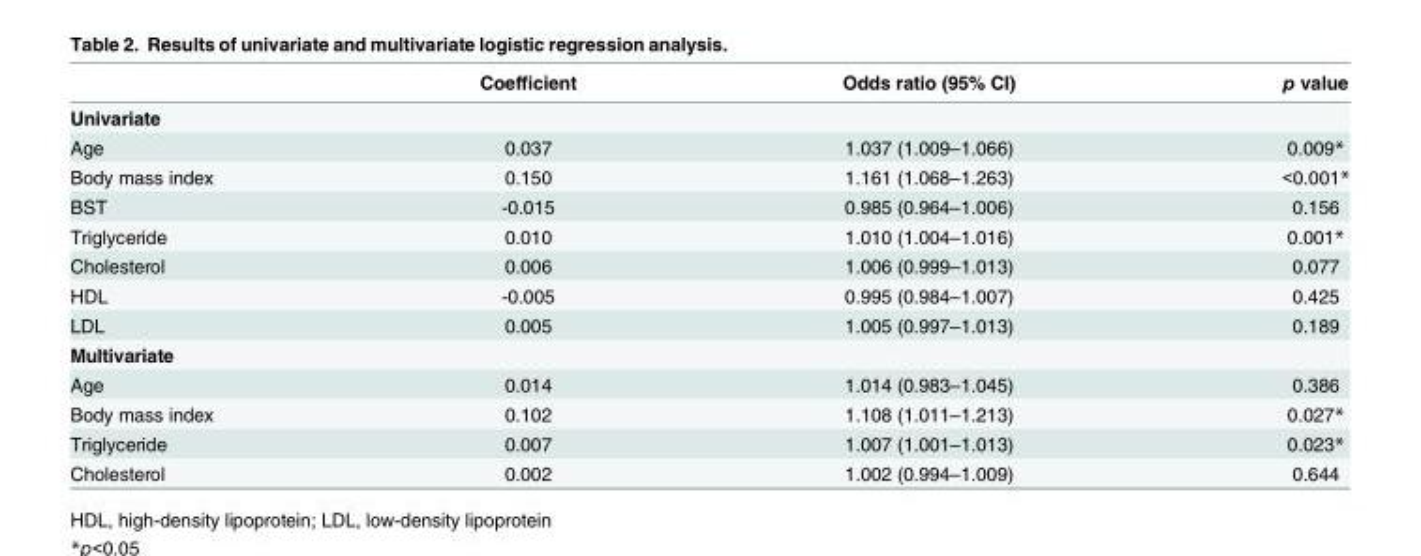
<table><thead><tr><td></td><td>Coefficient</td><td>Odds ratio (95% CI)</td><td>p value</td></tr></thead><tbody><tr><td colspan="4">Univariate</td></tr><tr><td>Age</td><td>0.037</td><td>1.037 (1.009–1.066)</td><td>0.009*</td></tr><tr><td>Body mass index</td><td>0.150</td><td>1.161 (1.068–1.263)</td><td>&lt;0.001*</td></tr><tr><td>BST</td><td>-0.015</td><td>0.985 (0.964–1.006)</td><td>0.156</td></tr><tr><td>Triglyceride</td><td>0.010</td><td>1.010 (1.004–1.016)</td><td>0.001*</td></tr><tr><td>Cholesterol</td><td>0.006</td><td>1.006 (0.999–1.013)</td><td>0.077</td></tr><tr><td>HDL</td><td>-0.005</td><td>0.995 (0.984–1.007)</td><td>0.425</td></tr><tr><td>LDL</td><td>0.005</td><td>1.005 (0.997–1.013)</td><td>0.189</td></tr><tr><td colspan="4">Multivariate</td></tr><tr><td>Age</td><td>0.014</td><td>1.014 (0.983–1.045)</td><td>0.386</td></tr><tr><td>Body mass index</td><td>0.102</td><td>1.108 (1.011–1.213)</td><td>0.027*</td></tr><tr><td>Triglyceride</td><td>0.007</td><td>1.007 (1.001–1.013)</td><td>0.023*</td></tr><tr><td>Cholesterol</td><td>0.002</td><td>1.002 (0.994–1.009)</td><td>0.644</td></tr></tbody></table>